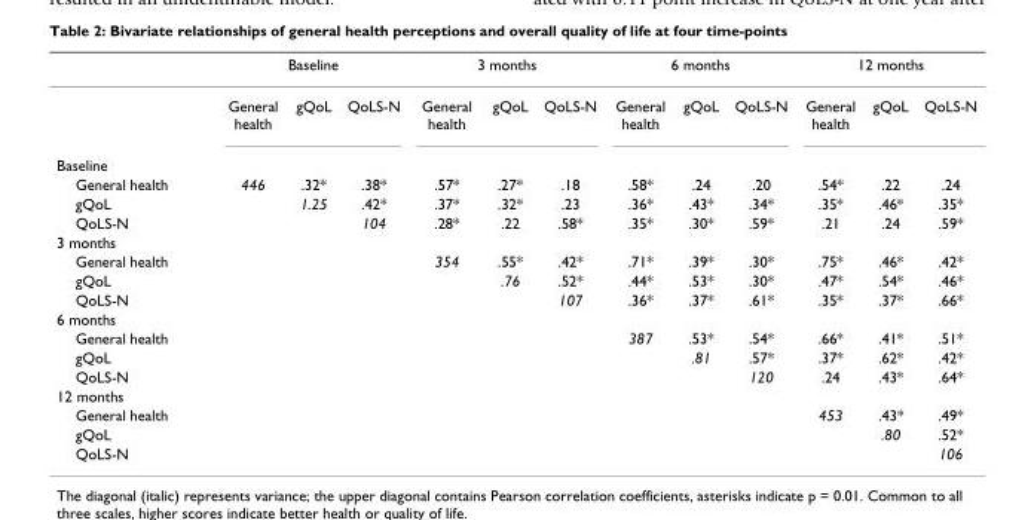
<table><thead><tr><td rowspan="2"></td><td colspan="3">Baseline</td><td colspan="3">3 months</td><td colspan="3">6 months</td><td colspan="3">12 months</td></tr><tr><td>General health</td><td>gQoL</td><td>QoLS-N</td><td>General health</td><td>gQoL</td><td>QoLS-N</td><td>General health</td><td>gQoL</td><td>QoLS-N</td><td>General health</td><td>gQoL</td><td>QoLS-N</td></tr></thead><tbody><tr><td colspan="13">Baseline</td></tr><tr><td>General health</td><td>446</td><td>.32*</td><td>.38*</td><td>.57*</td><td>.27*</td><td>.18</td><td>.58*</td><td>.24</td><td>.20</td><td>.54*</td><td>.22</td><td>.24</td></tr><tr><td>gQoL</td><td></td><td>1.25</td><td>.42*</td><td>.37*</td><td>.32*</td><td>.23</td><td>.36*</td><td>.43*</td><td>.34*</td><td>.35*</td><td>.46*</td><td>.35*</td></tr><tr><td>QoLS-N</td><td></td><td></td><td>104</td><td>.28*</td><td>.22</td><td>.58*</td><td>.35*</td><td>.30*</td><td>.59*</td><td>.21</td><td>.24</td><td>.59*</td></tr><tr><td colspan="13">3 months</td></tr><tr><td>General health</td><td></td><td></td><td></td><td>354</td><td>.55*</td><td>.42*</td><td>.71*</td><td>.39*</td><td>.30*</td><td>.75*</td><td>.46*</td><td>.42*</td></tr><tr><td>gQoL</td><td></td><td></td><td></td><td></td><td>.76</td><td>.52*</td><td>.44*</td><td>.53*</td><td>.30*</td><td>.47*</td><td>.54*</td><td>.46*</td></tr><tr><td>QoLS-N</td><td></td><td></td><td></td><td></td><td></td><td>107</td><td>.36*</td><td>.37*</td><td>.61*</td><td>.35*</td><td>.37*</td><td>.66*</td></tr><tr><td colspan="13">6 months</td></tr><tr><td>General health</td><td></td><td></td><td></td><td></td><td></td><td></td><td>387</td><td>.53*</td><td>.54*</td><td>.66*</td><td>.41*</td><td>.51*</td></tr><tr><td>gQoL</td><td></td><td></td><td></td><td></td><td></td><td></td><td></td><td>.81</td><td>.57*</td><td>.37*</td><td>.62*</td><td>.42*</td></tr><tr><td>QoLS-N</td><td></td><td></td><td></td><td></td><td></td><td></td><td></td><td></td><td>120</td><td>.24</td><td>.43*</td><td>.64*</td></tr><tr><td colspan="13">12 months</td></tr><tr><td>General health</td><td></td><td></td><td></td><td></td><td></td><td></td><td></td><td></td><td></td><td>453</td><td>.43*</td><td>.49*</td></tr><tr><td>gQoL</td><td></td><td></td><td></td><td></td><td></td><td></td><td></td><td></td><td></td><td></td><td>.80</td><td>.52*</td></tr><tr><td>QoLS-N</td><td></td><td></td><td></td><td></td><td></td><td></td><td></td><td></td><td></td><td></td><td></td><td>106</td></tr></tbody></table>